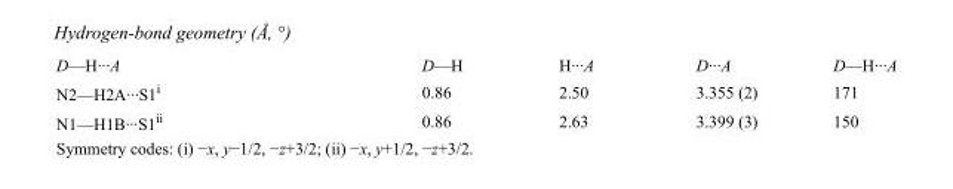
<table><tbody><tr><td>D—H···A</td><td>D—H</td><td>H···A</td><td>D···A</td><td>D—H···A</td></tr><tr><td>N2—H2A···S1<sup>i</sup></td><td>0.86</td><td>2.50</td><td>3.355 (2)</td><td>171</td></tr><tr><td>N1—H1B···S1<sup>ii</sup></td><td>0.86</td><td>2.63</td><td>3.399 (3)</td><td>150</td></tr></tbody></table>